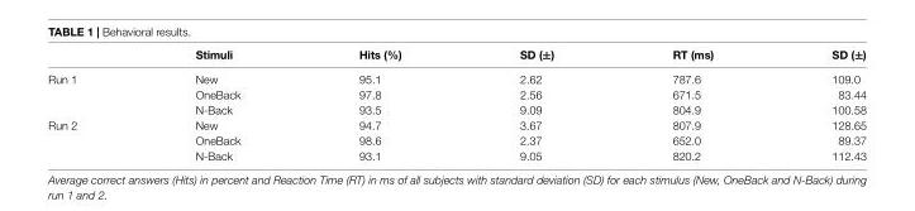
<table><thead><tr><td></td><td>Stimuli</td><td>Hits (%)</td><td>SD (±)</td><td>RT (ms)</td><td>SD (±)</td></tr></thead><tbody><tr><td rowspan="3">Run 1</td><td>New</td><td>95.1</td><td>2.62</td><td>787.6</td><td>109.0</td></tr><tr><td>OneBack</td><td>97.8</td><td>2.56</td><td>671.5</td><td>83.44</td></tr><tr><td>N-Back</td><td>93.5</td><td>9.09</td><td>804.9</td><td>100.58</td></tr><tr><td rowspan="3">Run 2</td><td>New</td><td>94.7</td><td>3.67</td><td>807.9</td><td>128.65</td></tr><tr><td>OneBack</td><td>98.6</td><td>2.37</td><td>652.0</td><td>89.37</td></tr><tr><td>N-Back</td><td>93.1</td><td>9.05</td><td>820.2</td><td>112.43</td></tr></tbody></table>